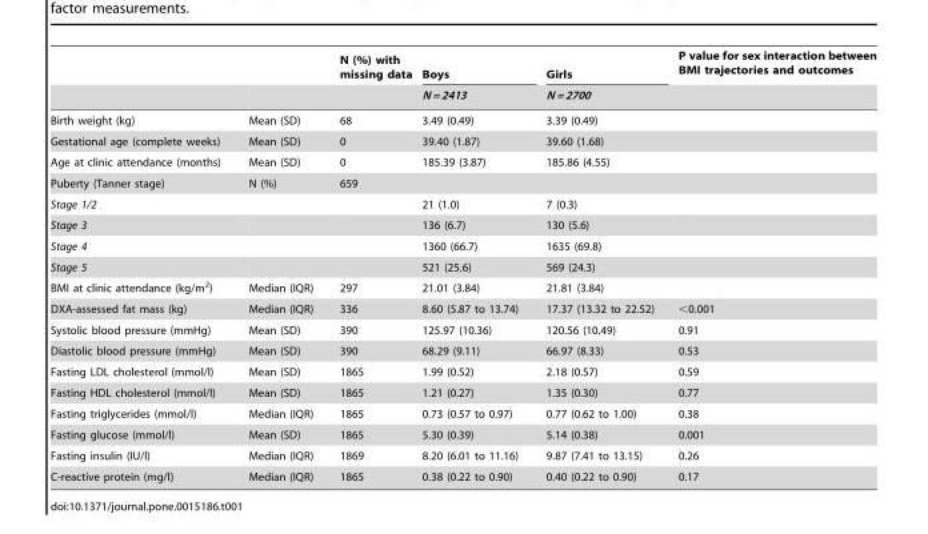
<table><thead><tr><td rowspan="2"></td><td rowspan="2"></td><td rowspan="2">N (%) with missing data</td><td rowspan="2">Boys N = 2413</td><td rowspan="2">Girls N = 2700</td><td rowspan="2">P value for sex interaction between BMI trajectories and outcomes</td></tr><tr></tr></thead><tbody><tr><td>Birth weight (kg)</td><td>Mean (SD)</td><td>68</td><td>3.49 (0.49)</td><td>3.39 (0.49)</td><td></td></tr><tr><td>Gestational age (complete weeks)</td><td>Mean (SD)</td><td>0</td><td>39.40 (1.87)</td><td>39.60 (1.68)</td><td></td></tr><tr><td>Age at clinic attendance (months)</td><td>Mean (SD)</td><td>0</td><td>185.39 (3.87)</td><td>185.86 (4.55)</td><td></td></tr><tr><td>Puberty (Tanner stage)</td><td>N (%)</td><td>659</td><td></td><td></td><td></td></tr><tr><td>Stage 1/2</td><td></td><td></td><td>21 (1.0)</td><td>7 (0.3)</td><td></td></tr><tr><td>Stage 3</td><td></td><td></td><td>136 (6.7)</td><td>130 (5.6)</td><td></td></tr><tr><td>Stage 4</td><td></td><td></td><td>1360 (66.7)</td><td>1635 (69.8)</td><td></td></tr><tr><td>Stage 5</td><td></td><td></td><td>521 (25.6)</td><td>569 (24.3)</td><td></td></tr><tr><td>BMI at clinic attendance (kg/m<sup>2</sup>)</td><td>Median (IQR)</td><td>297</td><td>21.01 (3.84)</td><td>21.81 (3.84)</td><td></td></tr><tr><td>DXA-assessed fat mass (kg)</td><td>Median (IQR)</td><td>336</td><td>8.60 (5.87 to 13.74)</td><td>17.37 (13.32 to 22.52)</td><td>&lt;0.001</td></tr><tr><td>Systolic blood pressure (mmHg)</td><td>Mean (SD)</td><td>390</td><td>125.97 (10.36)</td><td>120.56 (10.49)</td><td>0.91</td></tr><tr><td>Diastolic blood pressure (mmHg)</td><td>Mean (SD)</td><td>390</td><td>68.29 (9.11)</td><td>66.97 (8.33)</td><td>0.53</td></tr><tr><td>Fasting LDL cholesterol (mmol/l)</td><td>Mean (SD)</td><td>1865</td><td>1.99 (0.52)</td><td>2.18 (0.57)</td><td>0.59</td></tr><tr><td>Fasting HDL cholesterol (mmol/l)</td><td>Mean (SD)</td><td>1865</td><td>1.21 (0.27)</td><td>1.35 (0.30)</td><td>0.77</td></tr><tr><td>Fasting triglycerides (mmol/l)</td><td>Median (IQR)</td><td>1865</td><td>0.73 (0.57 to 0.97)</td><td>0.77 (0.62 to 1.00)</td><td>0.38</td></tr><tr><td>Fasting glucose (mmol/l)</td><td>Mean (SD)</td><td>1865</td><td>5.30 (0.39)</td><td>5.14 (0.38)</td><td>0.001</td></tr><tr><td>Fasting insulin (IU/l)</td><td>Median (IQR)</td><td>1869</td><td>8.20 (6.01 to 11.16)</td><td>9.87 (7.41 to 13.15)</td><td>0.26</td></tr><tr><td>C-reactive protein (mg/l)</td><td>Median (IQR)</td><td>1865</td><td>0.38 (0.22 to 0.90)</td><td>0.40 (0.22 to 0.90)</td><td>0.17</td></tr></tbody></table>